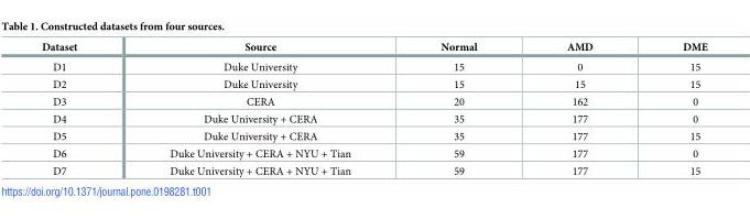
<table><thead><tr><td>Dataset</td><td>Source</td><td>Normal</td><td>AMD</td><td>DME</td></tr></thead><tbody><tr><td>D1</td><td>Duke University</td><td>15</td><td>0</td><td>15</td></tr><tr><td>D2</td><td>Duke University</td><td>15</td><td>15</td><td>15</td></tr><tr><td>D3</td><td>CERA</td><td>20</td><td>162</td><td>0</td></tr><tr><td>D4</td><td>Duke University + CERA</td><td>35</td><td>177</td><td>0</td></tr><tr><td>D5</td><td>Duke University + CERA</td><td>35</td><td>177</td><td>15</td></tr><tr><td>D6</td><td>Duke University + CERA + NYU + Tian</td><td>59</td><td>177</td><td>0</td></tr><tr><td>D7</td><td>Duke University + CERA + NYU + Tian</td><td>59</td><td>177</td><td>15</td></tr></tbody></table>